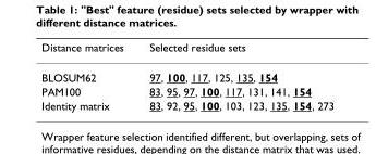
<table><thead><tr><td>Distance matrices</td><td>Selected residue sets</td></tr></thead><tbody><tr><td>BLOSUM62</td><td>97, 100, 117, 125, 135, 154</td></tr><tr><td>PAM100</td><td>83, 95, 97, 100, 117, 131, 141, 154</td></tr><tr><td>Identity matrix</td><td>83, 92, 95, 100, 103, 123, 135, 154, 273</td></tr></tbody></table>